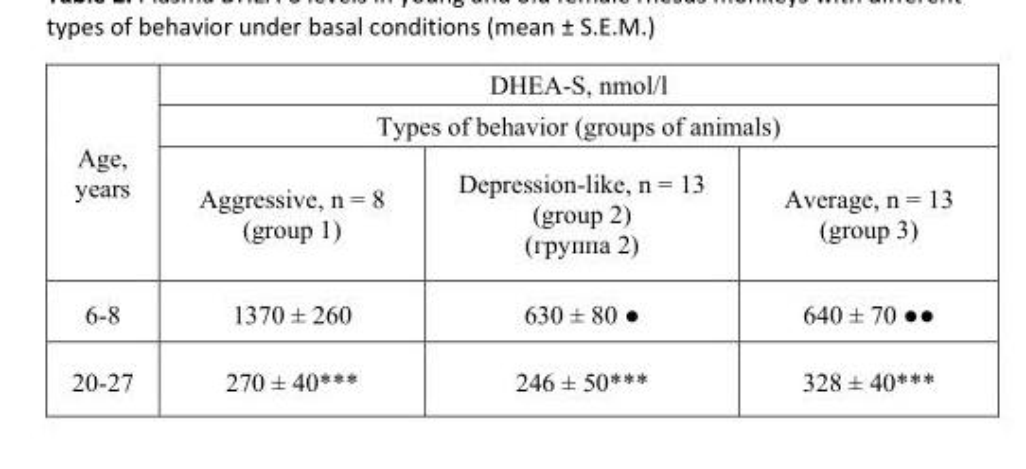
<table><thead><tr><td rowspan="3">Age, years</td><td rowspan="2" colspan="3">DHEA-S, nmol/l Types of behavior (groups of animals)</td></tr><tr></tr><tr><td>Aggressive, n = 8 (group 1)</td><td>Depression-like, n = 13 (group 2) (группа 2)</td><td>Average, n = 13 (group 3)</td></tr></thead><tbody><tr><td>6-8</td><td>1370 ± 260</td><td>630 ± 80 ●</td><td>640 ± 70 ●●</td></tr><tr><td>20-27</td><td>270 ± 40***</td><td>246 ± 50***</td><td>328 ± 40***</td></tr></tbody></table>